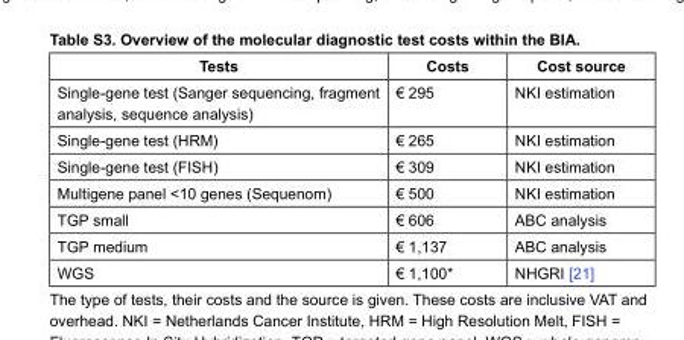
<table><thead><tr><td>Tests</td><td>Costs</td><td>Cost source</td></tr></thead><tbody><tr><td>Single-gene test (Sanger sequencing, fragment analysis, sequence analysis)</td><td>€ 295</td><td>NKI estimation</td></tr><tr><td>Single-gene test (HRM)</td><td>€ 265</td><td>NKI estimation</td></tr><tr><td>Single-gene test (FISH)</td><td>€ 309</td><td>NKI estimation</td></tr><tr><td>Multigene panel &lt;10 genes (Sequenom)</td><td>€ 500</td><td>NKI estimation</td></tr><tr><td>TGP small</td><td>€ 606</td><td>ABC analysis</td></tr><tr><td>TGP medium</td><td>€ 1,137</td><td>ABC analysis</td></tr><tr><td>WGS</td><td>€ 1,100*</td><td>NHGRI [21]</td></tr></tbody></table>